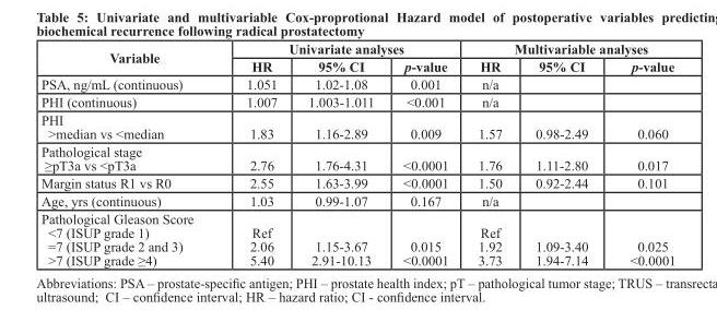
<table><thead><tr><td rowspan="2">Variable</td><td colspan="3">Univariate analyses</td><td colspan="3">Multivariable analyses</td></tr><tr><td>HR</td><td>95% CI</td><td>p-value</td><td>HR</td><td>95% CI</td><td>p-value</td></tr></thead><tbody><tr><td>PSA, ng/mL (continuous)</td><td>1.051</td><td>1.02-1.08</td><td>0.001</td><td>n/a</td><td></td><td></td></tr><tr><td>PHI (continuous)</td><td>1.007</td><td>1.003-1.011</td><td>&lt;0.001</td><td>n/a</td><td></td><td></td></tr><tr><td>PHI &gt;median vs &lt;median</td><td>1.83</td><td>1.16-2.89</td><td>0.009</td><td>1.57</td><td>0.98-2.49</td><td>0.060</td></tr><tr><td>Pathological stage ≥pT3a vs &lt;pT3a</td><td>2.76</td><td>1.76-4.31</td><td>&lt;0.0001</td><td>1.76</td><td>1.11-2.80</td><td>0.017</td></tr><tr><td>Margin status R1 vs R0</td><td>2.55</td><td>1.63-3.99</td><td>&lt;0.0001</td><td>1.50</td><td>0.92-2.44</td><td>0.101</td></tr><tr><td>Age, yrs (continuous)</td><td>1.03</td><td>0.99-1.07</td><td>0.167</td><td>n/a</td><td></td><td></td></tr><tr><td>Pathological Gleason Score &lt;7 (ISUP grade 1) =7 (ISUP grade 2 and 3) &gt;7 (ISUP grade ≥4)</td><td>Ref 2.06 5.40</td><td>1.15-3.67 2.91-10.13</td><td>0.015 &lt;0.0001</td><td>Ref 1.92 3.73</td><td>1.09-3.40 1.94-7.14</td><td>0.025 &lt;0.0001</td></tr></tbody></table>